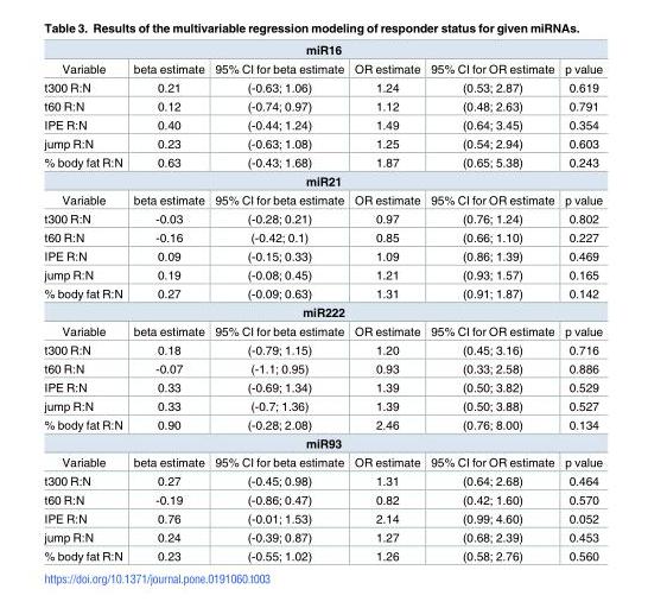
<table><tbody><tr><td colspan="6">miR16</td></tr><tr><td>Variable</td><td>beta estimate</td><td>95% CI for beta estimate</td><td>OR estimate</td><td>95% CI for OR estimate</td><td>p value</td></tr><tr><td>t300 R:N</td><td>0.21</td><td>(-0.63; 1.06)</td><td>1.24</td><td>(0.53; 2.87)</td><td>0.619</td></tr><tr><td>t60 R:N</td><td>0.12</td><td>(-0.74; 0.97)</td><td>1.12</td><td>(0.48; 2.63)</td><td>0.791</td></tr><tr><td>IPE R:N</td><td>0.40</td><td>(-0.44; 1.24)</td><td>1.49</td><td>(0.64; 3.45)</td><td>0.354</td></tr><tr><td>jump R:N</td><td>0.23</td><td>(-0.63; 1.08)</td><td>1.25</td><td>(0.54; 2.94)</td><td>0.603</td></tr><tr><td>% body fat R:N</td><td>0.63</td><td>(-0.43; 1.68)</td><td>1.87</td><td>(0.65; 5.38)</td><td>0.243</td></tr><tr><td colspan="6">miR21</td></tr><tr><td>Variable</td><td>beta estimate</td><td>95% CI for beta estimate</td><td>OR estimate</td><td>95% CI for OR estimate</td><td>p value</td></tr><tr><td>t300 R:N</td><td>-0.03</td><td>(-0.28; 0.21)</td><td>0.97</td><td>(0.76; 1.24)</td><td>0.802</td></tr><tr><td>t60 R:N</td><td>-0.16</td><td>(-0.42; 0.1)</td><td>0.85</td><td>(0.66; 1.10)</td><td>0.227</td></tr><tr><td>IPE R:N</td><td>0.09</td><td>(-0.15; 0.33)</td><td>1.09</td><td>(0.86; 1.39)</td><td>0.469</td></tr><tr><td>jump R:N</td><td>0.19</td><td>(-0.08; 0.45)</td><td>1.21</td><td>(0.93; 1.57)</td><td>0.165</td></tr><tr><td>% body fat R:N</td><td>0.27</td><td>(-0.09; 0.63)</td><td>1.31</td><td>(0.91; 1.87)</td><td>0.142</td></tr><tr><td colspan="6">miR222</td></tr><tr><td>Variable</td><td>beta estimate</td><td>95% CI for beta estimate</td><td>OR estimate</td><td>95% CI for OR estimate</td><td>p value</td></tr><tr><td>t300 R:N</td><td>0.18</td><td>(-0.79; 1.15)</td><td>1.20</td><td>(0.45; 3.16)</td><td>0.716</td></tr><tr><td>t60 R:N</td><td>-0.07</td><td>(-1.1; 0.95)</td><td>0.93</td><td>(0.33; 2.58)</td><td>0.886</td></tr><tr><td>IPE R:N</td><td>0.33</td><td>(-0.69; 1.34)</td><td>1.39</td><td>(0.50; 3.82)</td><td>0.529</td></tr><tr><td>jump R:N</td><td>0.33</td><td>(-0.7; 1.36)</td><td>1.39</td><td>(0.50; 3.88)</td><td>0.527</td></tr><tr><td>% body fat R:N</td><td>0.90</td><td>(-0.28; 2.08)</td><td>2.46</td><td>(0.76; 8.00)</td><td>0.134</td></tr><tr><td colspan="6">miR93</td></tr><tr><td>Variable</td><td>beta estimate</td><td>95% CI for beta estimate</td><td>OR estimate</td><td>95% CI for OR estimate</td><td>p value</td></tr><tr><td>t300 R:N</td><td>0.27</td><td>(-0.45; 0.98)</td><td>1.31</td><td>(0.64; 2.68)</td><td>0.464</td></tr><tr><td>t60 R:N</td><td>-0.19</td><td>(-0.86; 0.47)</td><td>0.82</td><td>(0.42; 1.60)</td><td>0.570</td></tr><tr><td>IPE R:N</td><td>0.76</td><td>(-0.01; 1.53)</td><td>2.14</td><td>(0.99; 4.60)</td><td>0.052</td></tr><tr><td>jump R:N</td><td>0.24</td><td>(-0.39; 0.87)</td><td>1.27</td><td>(0.68; 2.39)</td><td>0.453</td></tr><tr><td>% body fat R:N</td><td>0.23</td><td>(-0.55; 1.02)</td><td>1.26</td><td>(0.58; 2.76)</td><td>0.560</td></tr></tbody></table>